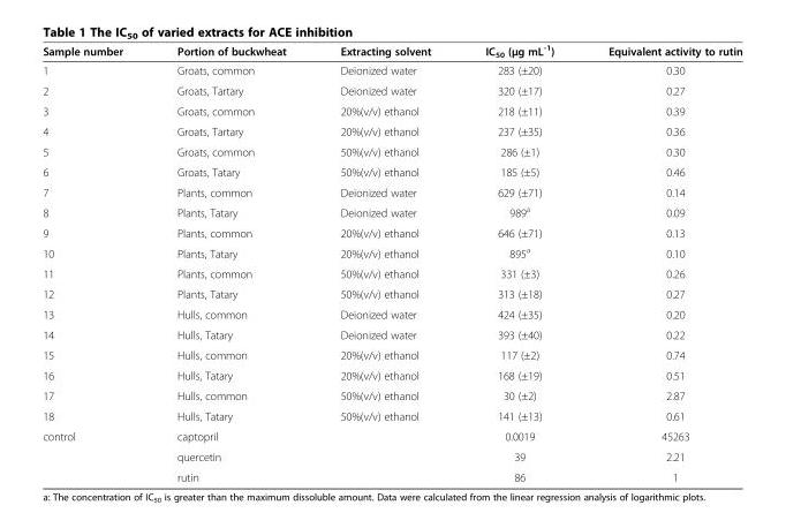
<table><thead><tr><td>Sample number</td><td>Portion of buckwheat</td><td>Extracting solvent</td><td>IC<sub>50</sub> (μg mL<sup>-1</sup>)</td><td>Equivalent activity to rutin</td></tr></thead><tbody><tr><td>1</td><td>Groats, common</td><td>Deionized water</td><td>283 (±20)</td><td>0.30</td></tr><tr><td>2</td><td>Groats, Tartary</td><td>Deionized water</td><td>320 (±17)</td><td>0.27</td></tr><tr><td>3</td><td>Groats, common</td><td>20%(v/v) ethanol</td><td>218 (±11)</td><td>0.39</td></tr><tr><td>4</td><td>Groats, Tartary</td><td>20%(v/v) ethanol</td><td>237 (±35)</td><td>0.36</td></tr><tr><td>5</td><td>Groats, common</td><td>50%(v/v) ethanol</td><td>286 (±1)</td><td>0.30</td></tr><tr><td>6</td><td>Groats, Tatary</td><td>50%(v/v) ethanol</td><td>185 (±5)</td><td>0.46</td></tr><tr><td>7</td><td>Plants, common</td><td>Deionized water</td><td>629 (±71)</td><td>0.14</td></tr><tr><td>8</td><td>Plants, Tatary</td><td>Deionized water</td><td>989<sup>a</sup></td><td>0.09</td></tr><tr><td>9</td><td>Plants, common</td><td>20%(v/v) ethanol</td><td>646 (±71)</td><td>0.13</td></tr><tr><td>10</td><td>Plants, Tatary</td><td>20%(v/v) ethanol</td><td>895<sup>a</sup></td><td>0.10</td></tr><tr><td>11</td><td>Plants, common</td><td>50%(v/v) ethanol</td><td>331 (±3)</td><td>0.26</td></tr><tr><td>12</td><td>Plants, Tatary</td><td>50%(v/v) ethanol</td><td>313 (±18)</td><td>0.27</td></tr><tr><td>13</td><td>Hulls, common</td><td>Deionized water</td><td>424 (±35)</td><td>0.20</td></tr><tr><td>14</td><td>Hulls, Tatary</td><td>Deionized water</td><td>393 (±40)</td><td>0.22</td></tr><tr><td>15</td><td>Hulls, common</td><td>20%(v/v) ethanol</td><td>117 (±2)</td><td>0.74</td></tr><tr><td>16</td><td>Hulls, Tatary</td><td>20%(v/v) ethanol</td><td>168 (±19)</td><td>0.51</td></tr><tr><td>17</td><td>Hulls, common</td><td>50%(v/v) ethanol</td><td>30 (±2)</td><td>2.87</td></tr><tr><td>18</td><td>Hulls, Tatary</td><td>50%(v/v) ethanol</td><td>141 (±13)</td><td>0.61</td></tr><tr><td rowspan="3">control</td><td>captopril</td><td></td><td>0.0019</td><td>45263</td></tr><tr><td>quercetin</td><td></td><td>39</td><td>2.21</td></tr><tr><td>rutin</td><td></td><td>86</td><td>1</td></tr></tbody></table>